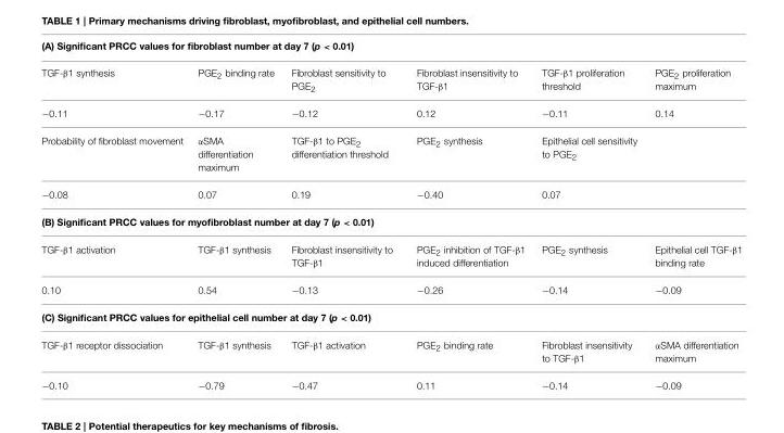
<table><thead><tr><td colspan="6">(A) Significant PRCC values for fibroblast number at day 7 (p &lt; 0.01)</td></tr><tr><td>TGF-β1 synthesis</td><td>PGE2 binding rate</td><td>Fibroblast sensitivity to PGE2</td><td>Fibroblast insensitivity to TGF-β1</td><td>TGF-β1 proliferation threshold</td><td>PGE2 proliferation maximum</td></tr></thead><tbody><tr><td>−0.11</td><td>−0.17</td><td>−0.12</td><td>0.12</td><td>−0.11</td><td>0.14</td></tr><tr><td>Probability of fibroblast movement</td><td>αSMA differentiation maximum</td><td>TGF-β1 to PGE2 differentiation threshold</td><td>PGE2 synthesis</td><td>Epithelial cell sensitivity to PGE2</td><td></td></tr><tr><td>−0.08</td><td>0.07</td><td>0.19</td><td>−0.40</td><td>0.07</td><td></td></tr><tr><td colspan="6">(B) Significant PRCC values for myofibroblast number at day 7 (p &lt; 0.01)</td></tr><tr><td>TGF-β1 activation</td><td>TGF-β1 synthesis</td><td>Fibroblast insensitivity to TGF-β1</td><td>PGE2 inhibition of TGF-β1 induced differentiation</td><td>PGE2 synthesis</td><td>Epithelial cell TGF-β1 binding rate</td></tr><tr><td>0.10</td><td>0.54</td><td>−0.13</td><td>−0.26</td><td>−0.14</td><td>−0.09</td></tr><tr><td colspan="6">(C) Significant PRCC values for epithelial cell number at day 7 (p &lt; 0.01)</td></tr><tr><td>TGF-β1 receptor dissociation</td><td>TGF-β1 synthesis</td><td>TGF-β1 activation</td><td>PGE2 binding rate</td><td>Fibroblast insensitivity to TGF-β1</td><td>αSMA differentiation maximum</td></tr><tr><td>−0.10</td><td>−0.79</td><td>−0.47</td><td>0.11</td><td>−0.14</td><td>−0.09</td></tr></tbody></table>